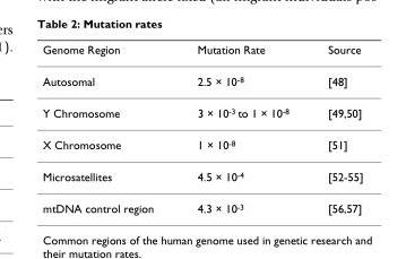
<table><thead><tr><td>Genome Region</td><td>Mutation Rate</td><td>Source</td></tr></thead><tbody><tr><td>Autosomal</td><td>2.5 × 10<sup>-8</sup></td><td>[48]</td></tr><tr><td>Y Chromosome</td><td>3 × 10<sup>-3</sup> to 1 × 10<sup>-8</sup></td><td>[49,50]</td></tr><tr><td>X Chromosome</td><td>1 × 10<sup>-8</sup></td><td>[51]</td></tr><tr><td>Microsatellites</td><td>4.5 × 10<sup>-4</sup></td><td>[52-55]</td></tr><tr><td>mtDNA control region</td><td>4.3 × 10<sup>-3</sup></td><td>[56,57]</td></tr></tbody></table>